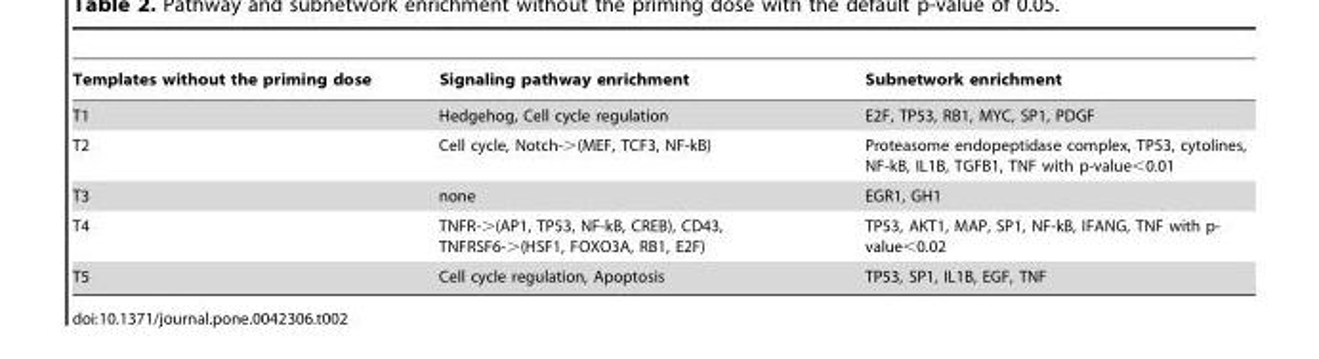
<table><thead><tr><td>Templates without the priming dose</td><td>Signaling pathway enrichment</td><td>Subnetwork enrichment</td></tr></thead><tbody><tr><td>T1</td><td>Hedgehog, Cell cycle regulation</td><td>E2F, TP53, RB1, MYC, SP1, PDGF</td></tr><tr><td>T2</td><td>Cell cycle, Notch-&gt;(MEF, TCF3, NF-kB)</td><td>Proteasome endopeptidase complex, TP53, cytolines, NF-kB, IL1B, TGFB1, TNF with p-value&lt;0.01</td></tr><tr><td>T3</td><td>none</td><td>EGR1, GH1</td></tr><tr><td>T4</td><td>TNFR-&gt;(AP1, TP53, NF-kB, CREB), CD43, TNFRSF6-&gt;(HSF1, FOXO3A, RB1, E2F)</td><td>TP53, AKT1, MAP, SP1, NF-kB, IFANG, TNF with p- value&lt;0.02</td></tr><tr><td>T5</td><td>Cell cycle regulation, Apoptosis</td><td>TP53, SP1, IL1B, EGF, TNF</td></tr></tbody></table>